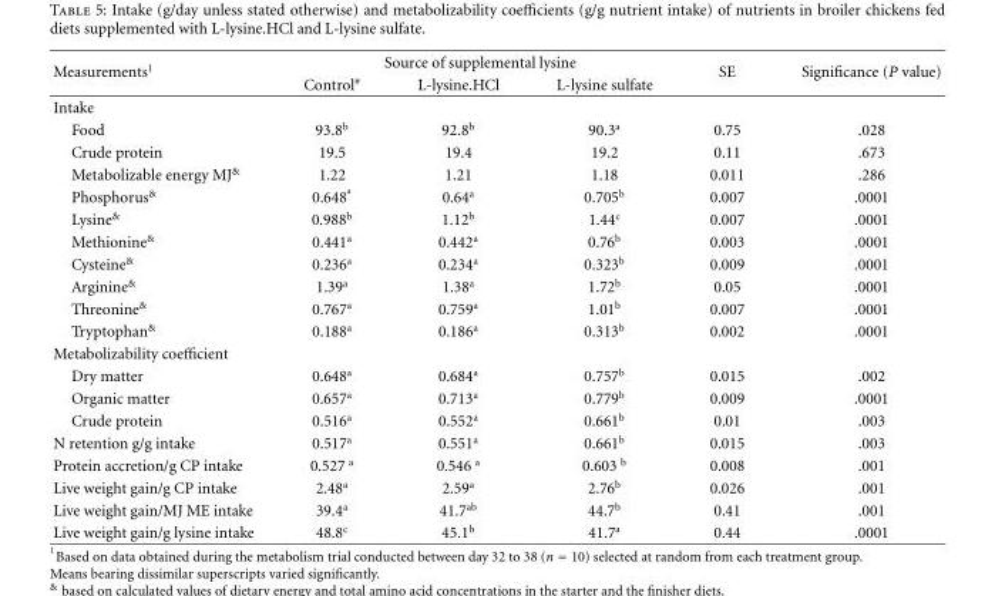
<table><thead><tr><td rowspan="2">Measurements<sup>1</sup></td><td colspan="3">Source of supplemental lysine</td><td rowspan="2">SE</td><td rowspan="2">Significance (P value)</td></tr><tr><td>Control<sup>#</sup></td><td>L-lysine.HCl</td><td>L-lysine sulfate</td></tr></thead><tbody><tr><td colspan="6">Intake</td></tr><tr><td>Food</td><td>93.8<sup>b</sup></td><td>92.8<sup>b</sup></td><td>90.3<sup>a</sup></td><td>0.75</td><td>.028</td></tr><tr><td>Crude protein</td><td>19.5</td><td>19.4</td><td>19.2</td><td>0.11</td><td>.673</td></tr><tr><td>Metabolizable energy MJ<sup>&amp;</sup></td><td>1.22</td><td>1.21</td><td>1.18</td><td>0.011</td><td>.286</td></tr><tr><td>Phosphorus<sup>&amp;</sup></td><td>0.648 a</td><td>0.64<sup>a</sup></td><td>0.705<sup>b</sup></td><td>0.007</td><td>.0001</td></tr><tr><td>Lysine<sup>&amp;</sup></td><td>0.988<sup>b</sup></td><td>1.12<sup>b</sup></td><td>1.44<sup>c</sup></td><td>0.007</td><td>.0001</td></tr><tr><td>Methionine<sup>&amp;</sup></td><td>0.441<sup>a</sup></td><td>0.442<sup>a</sup></td><td>0.76<sup>b</sup></td><td>0.003</td><td>.0001</td></tr><tr><td>Cysteine<sup>&amp;</sup></td><td>0.236<sup>a</sup></td><td>0.234<sup>a</sup></td><td>0.323<sup>b</sup></td><td>0.009</td><td>.0001</td></tr><tr><td>Arginine<sup>&amp;</sup></td><td>1.39<sup>a</sup></td><td>1.38<sup>a</sup></td><td>1.72<sup>b</sup></td><td>0.05</td><td>.0001</td></tr><tr><td>Threonine<sup>&amp;</sup></td><td>0.767<sup>a</sup></td><td>0.759<sup>a</sup></td><td>1.01<sup>b</sup></td><td>0.007</td><td>.0001</td></tr><tr><td>Tryptophan<sup>&amp;</sup></td><td>0.188<sup>a</sup></td><td>0.186<sup>a</sup></td><td>0.313<sup>b</sup></td><td>0.002</td><td>.0001</td></tr><tr><td colspan="6">Metabolizability coefficient</td></tr><tr><td>Dry matter</td><td>0.648<sup>a</sup></td><td>0.684<sup>a</sup></td><td>0.757<sup>b</sup></td><td>0.015</td><td>.002</td></tr><tr><td>Organic matter</td><td>0.657<sup>a</sup></td><td>0.713<sup>a</sup></td><td>0.779<sup>b</sup></td><td>0.009</td><td>.0001</td></tr><tr><td>Crude protein</td><td>0.516<sup>a</sup></td><td>0.552<sup>a</sup></td><td>0.661<sup>b</sup></td><td>0.01</td><td>.003</td></tr><tr><td>N retention g/g intake</td><td>0.517<sup>a</sup></td><td>0.551<sup>a</sup></td><td>0.661<sup>b</sup></td><td>0.015</td><td>.003</td></tr><tr><td>Protein accretion/g CP intake</td><td>0.527 <sup>a</sup></td><td>0.546 <sup>a</sup></td><td>0.603 <sup>b</sup></td><td>0.008</td><td>.001</td></tr><tr><td>Live weight gain/g CP intake</td><td>2.48<sup>a</sup></td><td>2.59<sup>a</sup></td><td>2.76<sup>b</sup></td><td>0.026</td><td>.001</td></tr><tr><td>Live weight gain/MJ ME intake</td><td>39.4<sup>a</sup></td><td>41.7<sup>ab</sup></td><td>44.7<sup>b</sup></td><td>0.41</td><td>.001</td></tr><tr><td>Live weight gain/g lysine intake</td><td>48.8<sup>c</sup></td><td>45.1<sup>b</sup></td><td>41.7<sup>a</sup></td><td>0.44</td><td>.0001</td></tr></tbody></table>